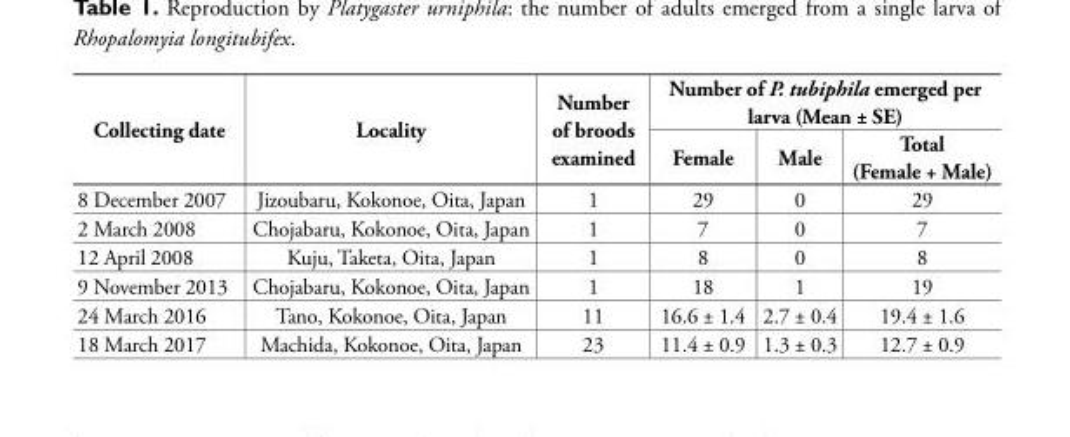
<table><tbody><tr><td rowspan="2">Collecting date</td><td rowspan="2">Locality</td><td rowspan="2">Number of broods examined</td><td colspan="3">Number of P. tubiphila emerged per larva (Mean ± SE)</td></tr><tr><td>Female</td><td>Male</td><td>Total (Female + Male)</td></tr><tr><td>8 December 2007</td><td>Jizoubaru, Kokonoe, Oita, Japan</td><td>1</td><td>29</td><td>0</td><td>29</td></tr><tr><td>2 March 2008</td><td>Chojabaru, Kokonoe, Oita, Japan</td><td>1</td><td>7</td><td>0</td><td>7</td></tr><tr><td>12 April 2008</td><td>Kuju, Taketa, Oita, Japan</td><td>1</td><td>8</td><td>0</td><td>8</td></tr><tr><td>9 November 2013</td><td>Chojabaru, Kokonoe, Oita, Japan</td><td>1</td><td>18</td><td>1</td><td>19</td></tr><tr><td>24 March 2016</td><td>Tano, Kokonoe, Oita, Japan</td><td>11</td><td>16.6 ± 1.4</td><td>2.7 ± 0.4</td><td>19.4 ± 1.6</td></tr><tr><td>18 March 2017</td><td>Machida, Kokonoe, Oita, Japan</td><td>23</td><td>11.4 ± 0.9</td><td>1.3 ± 0.3</td><td>12.7 ± 0.9</td></tr></tbody></table>